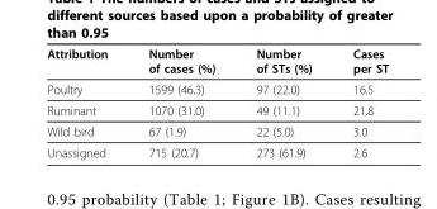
<table><thead><tr><td>Attribution</td><td>Number of cases (%)</td><td>Number of STs (%)</td><td>Cases per ST</td></tr></thead><tbody><tr><td>Poultry</td><td>1599 (46.3)</td><td>97 (22.0)</td><td>16.5</td></tr><tr><td>Ruminant</td><td>1070 (31.0)</td><td>49 (11.1)</td><td>21.8</td></tr><tr><td>Wild bird</td><td>67 (1.9)</td><td>22 (5.0)</td><td>3.0</td></tr><tr><td>Unassigned</td><td>715 (20.7)</td><td>273 (61.9)</td><td>2.6</td></tr></tbody></table>